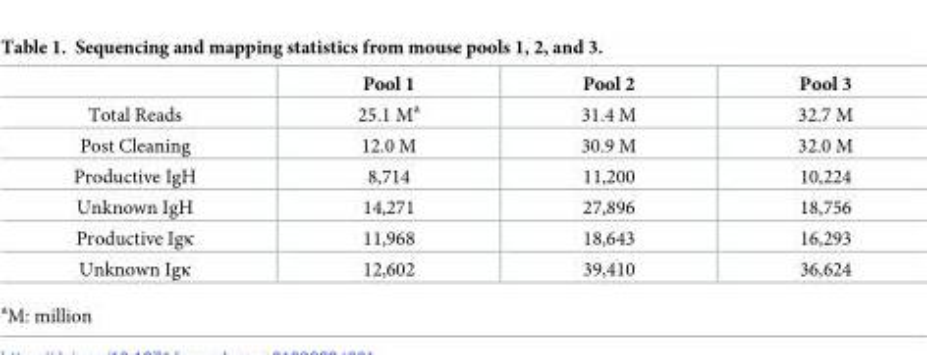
<table><thead><tr><td></td><td>Pool 1</td><td>Pool 2</td><td>Pool 3</td></tr></thead><tbody><tr><td>Total Reads</td><td>25.1 M<sup>a</sup></td><td>31.4 M</td><td>32.7 M</td></tr><tr><td>Post Cleaning</td><td>12.0 M</td><td>30.9 M</td><td>32.0 M</td></tr><tr><td>Productive IgH</td><td>8,714</td><td>11,200</td><td>10,224</td></tr><tr><td>Unknown IgH</td><td>14,271</td><td>27,896</td><td>18,756</td></tr><tr><td>Productive Igκ</td><td>11,968</td><td>18,643</td><td>16,293</td></tr><tr><td>Unknown Igκ</td><td>12,602</td><td>39,410</td><td>36,624</td></tr></tbody></table>